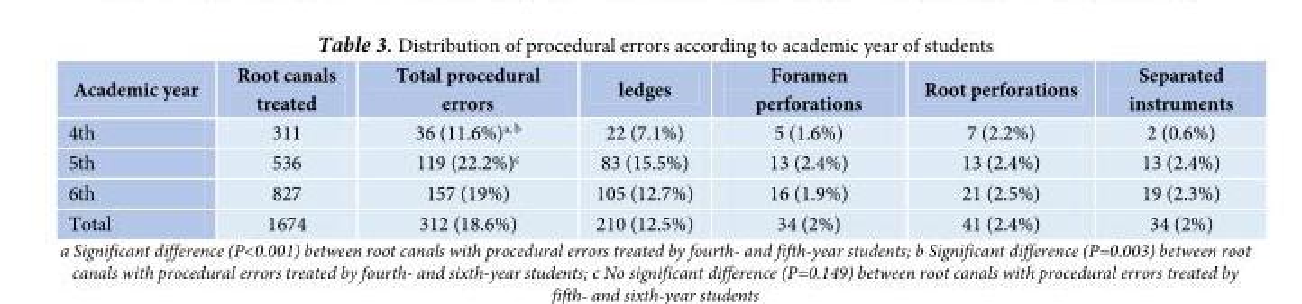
<table><thead><tr><td>Academic year</td><td>Root canals treated</td><td>Total procedural errors</td><td>ledges</td><td>Foramen perforations</td><td>Root perforations</td><td>Separated instruments</td></tr></thead><tbody><tr><td>4th</td><td>311</td><td>36 (11.6%)<sup>a, b</sup></td><td>22 (7.1%)</td><td>5 (1.6%)</td><td>7 (2.2%)</td><td>2 (0.6%)</td></tr><tr><td>5th</td><td>536</td><td>119 (22.2%)<sup>c</sup></td><td>83 (15.5%)</td><td>13 (2.4%)</td><td>13 (2.4%)</td><td>13 (2.4%)</td></tr><tr><td>6th</td><td>827</td><td>157 (19%)</td><td>105 (12.7%)</td><td>16 (1.9%)</td><td>21 (2.5%)</td><td>19 (2.3%)</td></tr><tr><td>Total</td><td>1674</td><td>312 (18.6%)</td><td>210 (12.5%)</td><td>34 (2%)</td><td>41 (2.4%)</td><td>34 (2%)</td></tr></tbody></table>